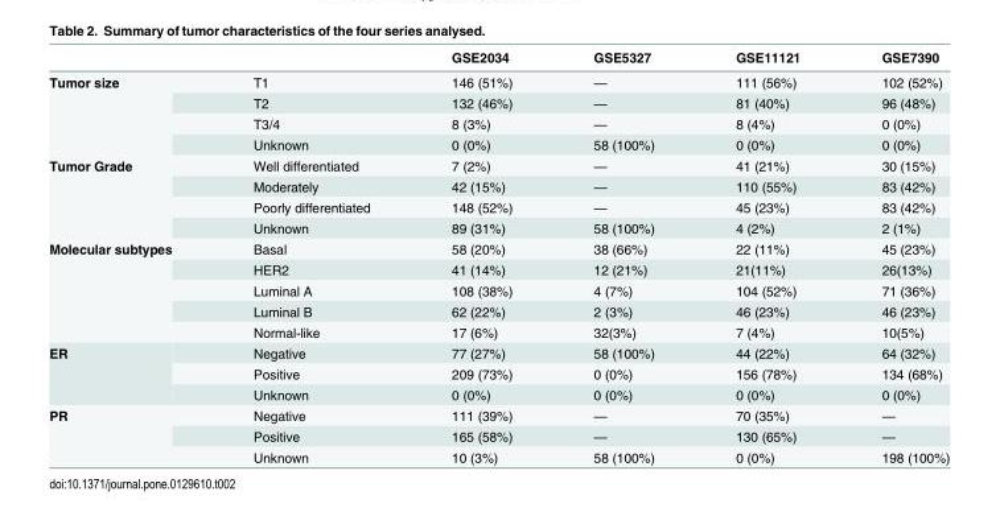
<table><thead><tr><td></td><td></td><td>GSE2034</td><td>GSE5327</td><td>GSE11121</td><td>GSE7390</td></tr></thead><tbody><tr><td rowspan="4">Tumor size</td><td>T1</td><td>146 (51%)</td><td>—</td><td>111 (56%)</td><td>102 (52%)</td></tr><tr><td>T2</td><td>132 (46%)</td><td>—</td><td>81 (40%)</td><td>96 (48%)</td></tr><tr><td>T3/4</td><td>8 (3%)</td><td>—</td><td>8 (4%)</td><td>0 (0%)</td></tr><tr><td>Unknown</td><td>0 (0%)</td><td>58 (100%)</td><td>0 (0%)</td><td>0 (0%)</td></tr><tr><td rowspan="4">Tumor Grade</td><td>Well differentiated</td><td>7 (2%)</td><td>—</td><td>41 (21%)</td><td>30 (15%)</td></tr><tr><td>Moderately</td><td>42 (15%)</td><td>—</td><td>110 (55%)</td><td>83 (42%)</td></tr><tr><td>Poorly differentiated</td><td>148 (52%)</td><td>—</td><td>45 (23%)</td><td>83 (42%)</td></tr><tr><td>Unknown</td><td>89 (31%)</td><td>58 (100%)</td><td>4 (2%)</td><td>2 (1%)</td></tr><tr><td rowspan="5">Molecular subtypes</td><td>Basal</td><td>58 (20%)</td><td>38 (66%)</td><td>22 (11%)</td><td>45 (23%)</td></tr><tr><td>HER2</td><td>41 (14%)</td><td>12 (21%)</td><td>21(11%)</td><td>26(13%)</td></tr><tr><td>Luminal A</td><td>108 (38%)</td><td>4 (7%)</td><td>104 (52%)</td><td>71 (36%)</td></tr><tr><td>Luminal B</td><td>62 (22%)</td><td>2 (3%)</td><td>46 (23%)</td><td>46 (23%)</td></tr><tr><td>Normal-like</td><td>17 (6%)</td><td>32(3%)</td><td>7 (4%)</td><td>10(5%)</td></tr><tr><td rowspan="3">ER</td><td>Negative</td><td>77 (27%)</td><td>58 (100%)</td><td>44 (22%)</td><td>64 (32%)</td></tr><tr><td>Positive</td><td>209 (73%)</td><td>0 (0%)</td><td>156 (78%)</td><td>134 (68%)</td></tr><tr><td>Unknown</td><td>0 (0%)</td><td>0 (0%)</td><td>0 (0%)</td><td>0 (0%)</td></tr><tr><td rowspan="3">PR</td><td>Negative</td><td>111 (39%)</td><td>—</td><td>70 (35%)</td><td>—</td></tr><tr><td>Positive</td><td>165 (58%)</td><td>—</td><td>130 (65%)</td><td>—</td></tr><tr><td>Unknown</td><td>10 (3%)</td><td>58 (100%)</td><td>0 (0%)</td><td>198 (100%)</td></tr></tbody></table>